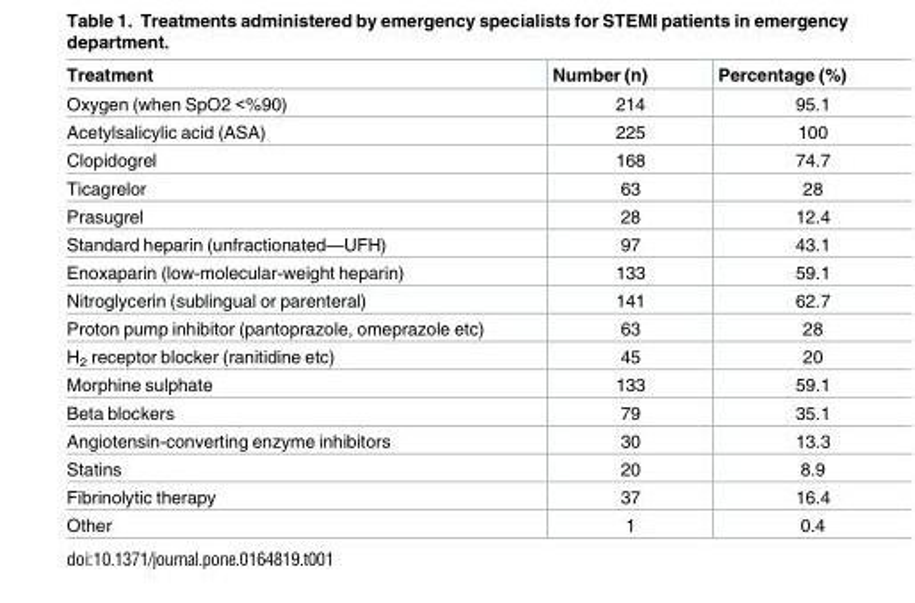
<table><thead><tr><td>Treatment</td><td>Number (n)</td><td>Percentage (%)</td></tr></thead><tbody><tr><td>Oxygen (when SpO2 &lt;%90)</td><td>214</td><td>95.1</td></tr><tr><td>Acetylsalicylic acid (ASA)</td><td>225</td><td>100</td></tr><tr><td>Clopidogrel</td><td>168</td><td>74.7</td></tr><tr><td>Ticagrelor</td><td>63</td><td>28</td></tr><tr><td>Prasugrel</td><td>28</td><td>12.4</td></tr><tr><td>Standard heparin (unfractionated—UFH)</td><td>97</td><td>43.1</td></tr><tr><td>Enoxaparin (low-molecular-weight heparin)</td><td>133</td><td>59.1</td></tr><tr><td>Nitroglycerin (sublingual or parenteral)</td><td>141</td><td>62.7</td></tr><tr><td>Proton pump inhibitor (pantoprazole, omeprazole etc)</td><td>63</td><td>28</td></tr><tr><td>H<sub>2</sub> receptor blocker (ranitidine etc)</td><td>45</td><td>20</td></tr><tr><td>Morphine sulphate</td><td>133</td><td>59.1</td></tr><tr><td>Beta blockers</td><td>79</td><td>35.1</td></tr><tr><td>Angiotensin-converting enzyme inhibitors</td><td>30</td><td>13.3</td></tr><tr><td>Statins</td><td>20</td><td>8.9</td></tr><tr><td>Fibrinolytic therapy</td><td>37</td><td>16.4</td></tr><tr><td>Other</td><td>1</td><td>0.4</td></tr></tbody></table>